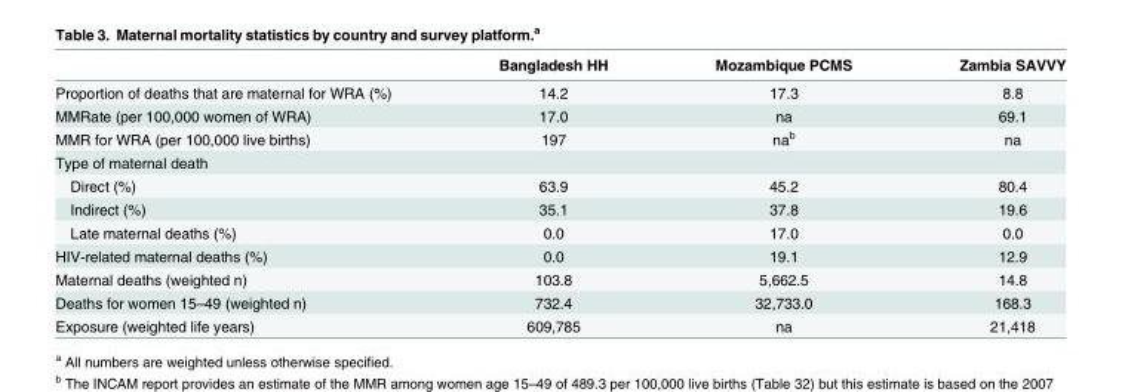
<table><thead><tr><td></td><td>Bangladesh HH</td><td>Mozambique PCMS</td><td>Zambia SAVVY</td></tr></thead><tbody><tr><td>Proportion of deaths that are maternal for WRA (%)</td><td>14.2</td><td>17.3</td><td>8.8</td></tr><tr><td>MMRate (per 100,000 women of WRA)</td><td>17.0</td><td>na</td><td>69.1</td></tr><tr><td>MMR for WRA (per 100,000 live births)</td><td>197</td><td>na<sup>b</sup></td><td>na</td></tr><tr><td colspan="4">Type of maternal death</td></tr><tr><td>Direct (%)</td><td>63.9</td><td>45.2</td><td>80.4</td></tr><tr><td>Indirect (%)</td><td>35.1</td><td>37.8</td><td>19.6</td></tr><tr><td>Late maternal deaths (%)</td><td>0.0</td><td>17.0</td><td>0.0</td></tr><tr><td>HIV-related maternal deaths (%)</td><td>0.0</td><td>19.1</td><td>12.9</td></tr><tr><td>Maternal deaths (weighted n)</td><td>103.8</td><td>5,662.5</td><td>14.8</td></tr><tr><td>Deaths for women 15–49 (weighted n)</td><td>732.4</td><td>32,733.0</td><td>168.3</td></tr><tr><td>Exposure (weighted life years)</td><td>609,785</td><td>na</td><td>21,418</td></tr></tbody></table>